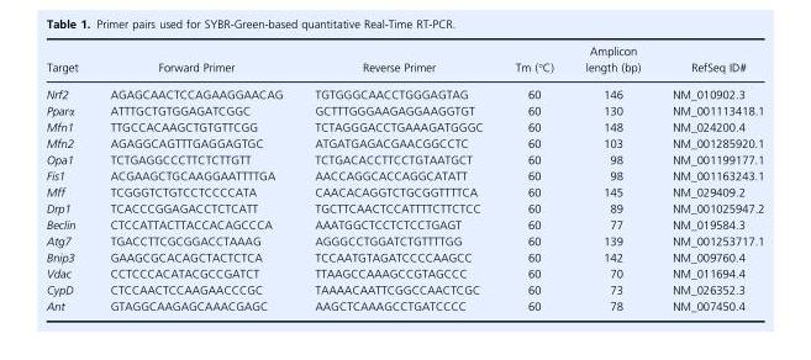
<table><thead><tr><td>Target</td><td>Forward Primer</td><td>Reverse Primer</td><td>Tm (°C)</td><td>Amplicon length (bp)</td><td>RefSeq ID#</td></tr></thead><tbody><tr><td>Nrf2</td><td>AGAGCAACTCCAGAAGGAACAG</td><td>TGTGGGCAACCTGGGAGTAG</td><td>60</td><td>146</td><td>NM_010902.3</td></tr><tr><td>Pparα</td><td>ATTTGCTGTGGAGATCGGC</td><td>GCTTTGGGAAGAGGAAGGTGT</td><td>60</td><td>130</td><td>NM_001113418.1</td></tr><tr><td>Mfn1</td><td>TTGCCACAAGCTGTGTTCGG</td><td>TCTAGGGACCTGAAAGATGGGC</td><td>60</td><td>148</td><td>NM_024200.4</td></tr><tr><td>Mfn2</td><td>AGAGGCAGTTTGAGGAGTGC</td><td>ATGATGAGACGAACGGCCTC</td><td>60</td><td>103</td><td>NM_001285920.1</td></tr><tr><td>Opa1</td><td>TCTGAGGCCCTTCTCTTGTT</td><td>TCTGACACCTTCCTGTAATGCT</td><td>60</td><td>98</td><td>NM_001199177.1</td></tr><tr><td>Fis1</td><td>ACGAAGCTGCAAGGAATTTTGA</td><td>AACCAGGCACCAGGCATATT</td><td>60</td><td>98</td><td>NM_001163243.1</td></tr><tr><td>Mff</td><td>TCGGGTCTGTCCTCCCCATA</td><td>CAACACAGGTCTGCGGTTTTCA</td><td>60</td><td>145</td><td>NM_029409.2</td></tr><tr><td>Drp1</td><td>TCACCCGGAGACCTCTCATT</td><td>TGCTTCAACTCCATTTTCTTCTCC</td><td>60</td><td>89</td><td>NM_001025947.2</td></tr><tr><td>Beclin</td><td>CTCCATTACTTACCACAGCCCA</td><td>AAATGGCTCCTCTCCTGAGT</td><td>60</td><td>77</td><td>NM_019584.3</td></tr><tr><td>Atg7</td><td>TGACCTTCGCGGACCTAAAG</td><td>AGGGCCTGGATCTGTTTTGG</td><td>60</td><td>139</td><td>NM_001253717.1</td></tr><tr><td>Bnip3</td><td>GAAGCGCACAGCTACTCTCA</td><td>TCCAATGTAGATCCCCAAGCC</td><td>60</td><td>142</td><td>NM_009760.4</td></tr><tr><td>Vdac</td><td>CCTCCCACATACGCCGATCT</td><td>TTAAGCCAAAGCCGTAGCCC</td><td>60</td><td>70</td><td>NM_011694.4</td></tr><tr><td>CypD</td><td>CTCCAACTCCAAGAACCCGC</td><td>TAAAACAATTCGGCCAACTCGC</td><td>60</td><td>73</td><td>NM_026352.3</td></tr><tr><td>Ant</td><td>GTAGGCAAGAGCAAACGAGC</td><td>AAGCTCAAAGCCTGATCCCC</td><td>60</td><td>78</td><td>NM_007450.4</td></tr></tbody></table>